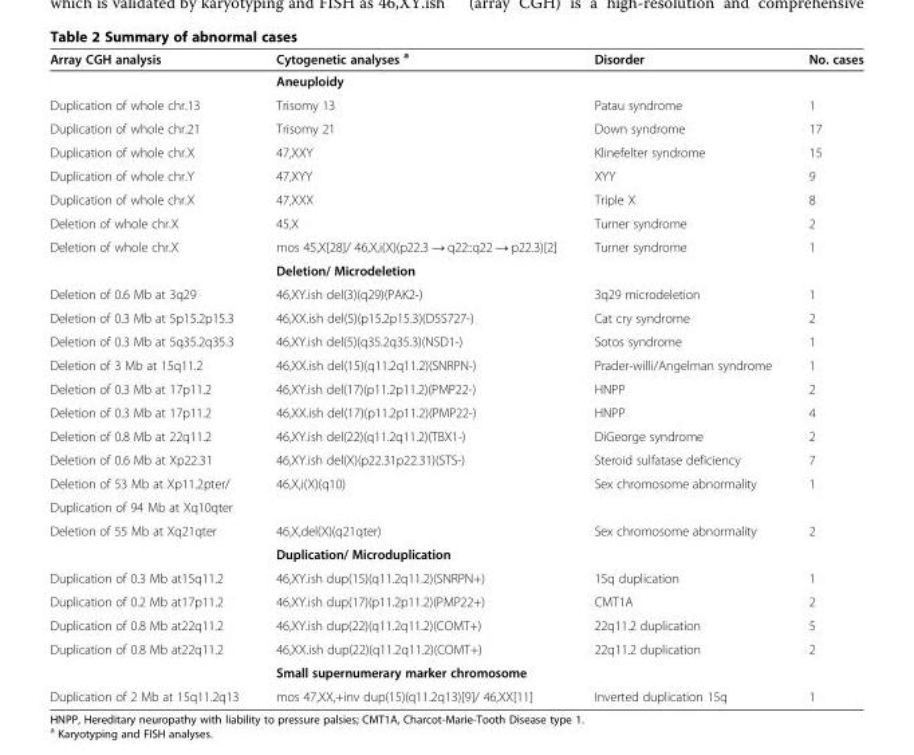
<table><thead><tr><td>Array CGH analysis</td><td>Cytogenetic analyses <sup>a</sup></td><td>Disorder</td><td>No. cases</td></tr></thead><tbody><tr><td></td><td>Aneuploidy</td><td></td><td></td></tr><tr><td>Duplication of whole chr.13</td><td>Trisomy 13</td><td>Patau syndrome</td><td>1</td></tr><tr><td>Duplication of whole chr.21</td><td>Trisomy 21</td><td>Down syndrome</td><td>17</td></tr><tr><td>Duplication of whole chr.X</td><td>47,XXY</td><td>Klinefelter syndrome</td><td>15</td></tr><tr><td>Duplication of whole chr.Y</td><td>47,XYY</td><td>XYY</td><td>9</td></tr><tr><td>Duplication of whole chr.X</td><td>47,XXX</td><td>Triple X</td><td>8</td></tr><tr><td>Deletion of whole chr.X</td><td>45,X</td><td>Turner syndrome</td><td>2</td></tr><tr><td rowspan="2">Deletion of whole chr.X</td><td>mos 45,X[28]/ 46,X,i(X)(p22.3 → q22::q22 → p22.3)[2]</td><td>Turner syndrome</td><td>1</td></tr><tr><td>Deletion/ Microdeletion</td><td></td><td></td></tr><tr><td>Deletion of 0.6 Mb at 3q29</td><td>46,XY.ish del(3)(q29)(PAK2-)</td><td>3q29 microdeletion</td><td>1</td></tr><tr><td>Deletion of 0.3 Mb at 5p15.2p15.3</td><td>46,XX.ish del(5)(p15.2p15.3)(D5S727-)</td><td>Cat cry syndrome</td><td>2</td></tr><tr><td>Deletion of 0.3 Mb at 5q35.2q35.3</td><td>46,XY.ish del(5)(q35.2q35.3)(NSD1-)</td><td>Sotos syndrome</td><td>1</td></tr><tr><td>Deletion of 3 Mb at 15q11.2</td><td>46,XX.ish del(15)(q11.2q11.2)(SNRPN-)</td><td>Prader-willi/Angelman syndrome</td><td>1</td></tr><tr><td>Deletion of 0.3 Mb at 17p11.2</td><td>46,XY.ish del(17)(p11.2p11.2)(PMP22-)</td><td>HNPP</td><td>2</td></tr><tr><td>Deletion of 0.3 Mb at 17p11.2</td><td>46,XX.ish del(17)(p11.2p11.2)(PMP22-)</td><td>HNPP</td><td>4</td></tr><tr><td>Deletion of 0.8 Mb at 22q11.2</td><td>46,XY.ish del(22)(q11.2q11.2)(TBX1-)</td><td>DiGeorge syndrome</td><td>2</td></tr><tr><td>Deletion of 0.6 Mb at Xp22.31</td><td>46,XY.ish del(X)(p22.31p22.31)(STS-)</td><td>Steroid sulfatase deficiency</td><td>7</td></tr><tr><td>Deletion of 53 Mb at Xp11.2pter/</td><td>46,X,i(X)(q10)</td><td>Sex chromosome abnormality</td><td>1</td></tr><tr><td colspan="4">Duplication of 94 Mb at Xq10qter</td></tr><tr><td rowspan="2">Deletion of 55 Mb at Xq21qter</td><td>46,X,del(X)(q21qter)</td><td>Sex chromosome abnormality</td><td>2</td></tr><tr><td>Duplication/ Microduplication</td><td></td><td></td></tr><tr><td>Duplication of 0.3 Mb at15q11.2</td><td>46,XY.ish dup(15)(q11.2q11.2)(SNRPN+)</td><td>15q duplication</td><td>1</td></tr><tr><td>Duplication of 0.2 Mb at17p11.2</td><td>46,XY.ish dup(17)(p11.2p11.2)(PMP22+)</td><td>CMT1A</td><td>2</td></tr><tr><td>Duplication of 0.8 Mb at22q11.2</td><td>46,XY.ish dup(22)(q11.2q11.2)(COMT+)</td><td>22q11.2 duplication</td><td>5</td></tr><tr><td rowspan="2">Duplication of 0.8 Mb at22q11.2</td><td>46,XX.ish dup(22)(q11.2q11.2)(COMT+)</td><td>22q11.2 duplication</td><td>2</td></tr><tr><td>Small supernumerary marker chromosome</td><td></td><td></td></tr><tr><td>Duplication of 2 Mb at 15q11.2q13</td><td>mos 47,XX,+inv dup(15)(q11.2q13)[9]/ 46,XX[11]</td><td>Inverted duplication 15q</td><td>1</td></tr></tbody></table>